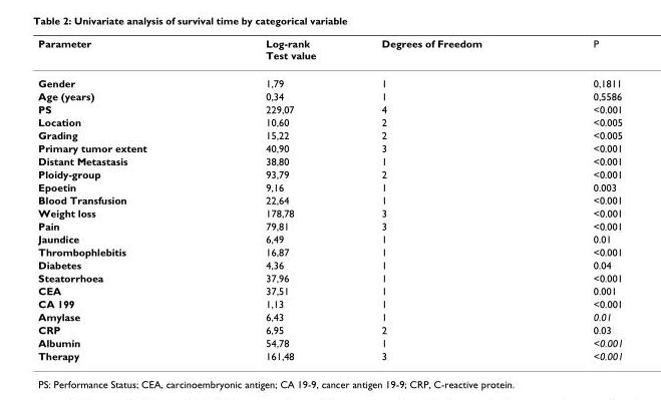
<table><thead><tr><td>Parameter</td><td>Log-rank Test value</td><td>Degrees of Freedom</td><td>P</td></tr></thead><tbody><tr><td>Gender</td><td>1,79</td><td>1</td><td>0,1811</td></tr><tr><td>Age (years)</td><td>0,34</td><td>1</td><td>0,5586</td></tr><tr><td>PS</td><td>229,07</td><td>4</td><td>&lt;0.001</td></tr><tr><td>Location</td><td>10,60</td><td>2</td><td>&lt;0.005</td></tr><tr><td>Grading</td><td>15,22</td><td>2</td><td>&lt;0.005</td></tr><tr><td>Primary tumor extent</td><td>40,90</td><td>3</td><td>&lt;0.001</td></tr><tr><td>Distant Metastasis</td><td>38,80</td><td>1</td><td>&lt;0.001</td></tr><tr><td>Ploidy-group</td><td>93,79</td><td>2</td><td>&lt;0.001</td></tr><tr><td>Epoetin</td><td>9,16</td><td>1</td><td>0.003</td></tr><tr><td>Blood Transfusion</td><td>22,64</td><td>1</td><td>&lt;0.001</td></tr><tr><td>Weight loss</td><td>178,78</td><td>3</td><td>&lt;0.001</td></tr><tr><td>Pain</td><td>79,81</td><td>3</td><td>&lt;0.001</td></tr><tr><td>Jaundice</td><td>6,49</td><td>1</td><td>0.01</td></tr><tr><td>Thrombophlebitis</td><td>16,87</td><td>1</td><td>&lt;0.001</td></tr><tr><td>Diabetes</td><td>4,36</td><td>1</td><td>0.04</td></tr><tr><td>Steatorrhoea</td><td>37,96</td><td>1</td><td>&lt;0.001</td></tr><tr><td>CEA</td><td>37,51</td><td>1</td><td>0.001</td></tr><tr><td>CA 199</td><td>1,13</td><td>1</td><td>&lt;0.001</td></tr><tr><td>Amylase</td><td>6,43</td><td>1</td><td>0.01</td></tr><tr><td>CRP</td><td>6,95</td><td>2</td><td>0.03</td></tr><tr><td>Albumin</td><td>54,78</td><td>1</td><td>&lt;0.001</td></tr><tr><td>Therapy</td><td>161,48</td><td>3</td><td>&lt;0.001</td></tr></tbody></table>